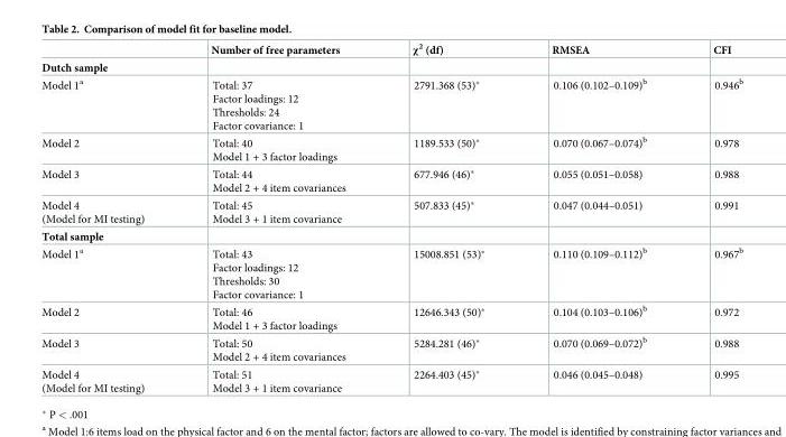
<table><thead><tr><td></td><td>Number of free parameters</td><td>χ<sup>2</sup> (df)</td><td>RMSEA</td><td>CFI</td></tr></thead><tbody><tr><td colspan="5">Dutch sample</td></tr><tr><td>Model 1<sup>a</sup></td><td>Total: 37 Factor loadings: 12 Thresholds: 24 Factor covariance: 1</td><td>2791.368 (53)*</td><td>0.106 (0.102–0.109)<sup>b</sup></td><td>0.946<sup>b</sup></td></tr><tr><td>Model 2</td><td>Total: 40 Model 1 + 3 factor loadings</td><td>1189.533 (50)*</td><td>0.070 (0.067–0.074)<sup>b</sup></td><td>0.978</td></tr><tr><td>Model 3</td><td>Total: 44 Model 2 + 4 item covariances</td><td>677.946 (46)*</td><td>0.055 (0.051–0.058)</td><td>0.988</td></tr><tr><td>Model 4 (Model for MI testing)</td><td>Total: 45 Model 3 + 1 item covariance</td><td>507.833 (45)*</td><td>0.047 (0.044–0.051)</td><td>0.991</td></tr><tr><td colspan="5">Total sample</td></tr><tr><td>Model 1<sup>a</sup></td><td>Total: 43 Factor loadings: 12 Thresholds: 30 Factor covariance: 1</td><td>15008.851 (53)*</td><td>0.110 (0.109–0.112)<sup>b</sup></td><td>0.967<sup>b</sup></td></tr><tr><td>Model 2</td><td>Total: 46 Model 1 + 3 factor loadings</td><td>12646.343 (50)*</td><td>0.104 (0.103–0.106)<sup>b</sup></td><td>0.972</td></tr><tr><td>Model 3</td><td>Total: 50 Model 2 + 4 item covariances</td><td>5284.281 (46)*</td><td>0.070 (0.069–0.072)<sup>b</sup></td><td>0.988</td></tr><tr><td>Model 4 (Model for MI testing)</td><td>Total: 51 Model 3 + 1 item covariance</td><td>2264.403 (45)*</td><td>0.046 (0.045–0.048)</td><td>0.995</td></tr></tbody></table>